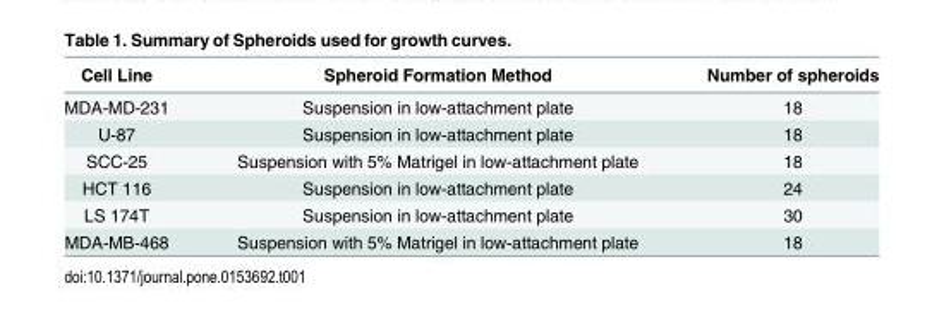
<table><thead><tr><td>Cell Line</td><td>Spheroid Formation Method</td><td>Number of spheroids</td></tr></thead><tbody><tr><td>MDA-MD-231</td><td>Suspension in low-attachment plate</td><td>18</td></tr><tr><td>U-87</td><td>Suspension in low-attachment plate</td><td>18</td></tr><tr><td>SCC-25</td><td>Suspension with 5% Matrigel in low-attachment plate</td><td>18</td></tr><tr><td>HCT 116</td><td>Suspension in low-attachment plate</td><td>24</td></tr><tr><td>LS 174T</td><td>Suspension in low-attachment plate</td><td>30</td></tr><tr><td>MDA-MB-468</td><td>Suspension with 5% Matrigel in low-attachment plate</td><td>18</td></tr></tbody></table>